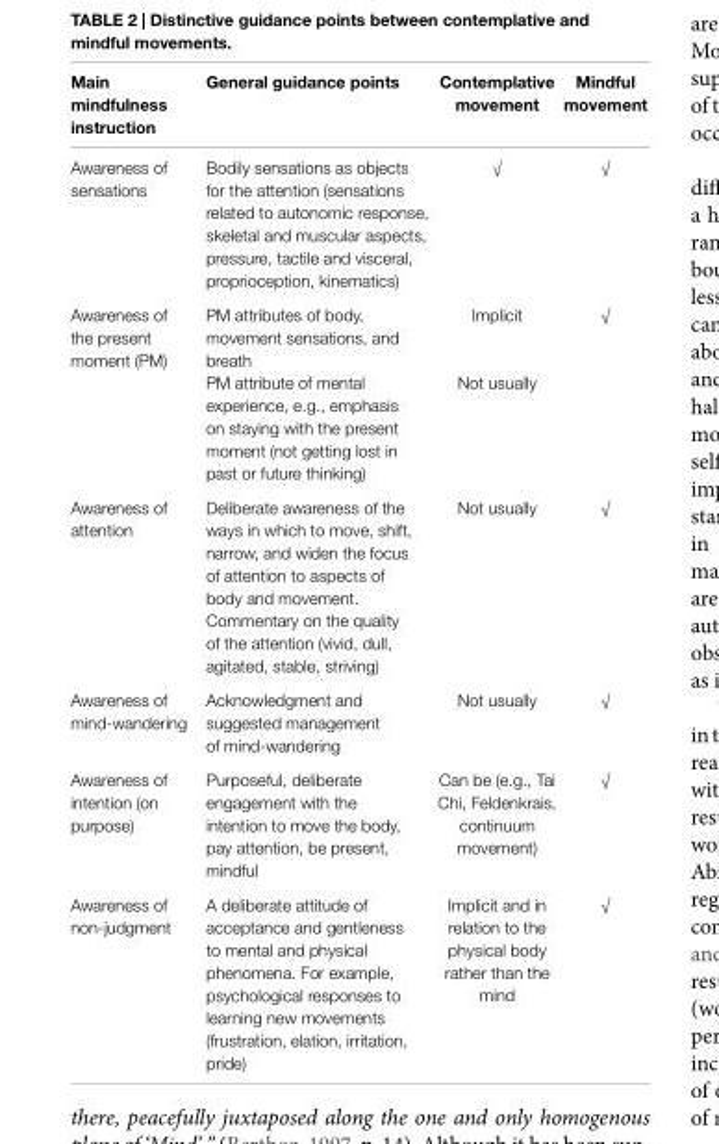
<table><thead><tr><td>Main mindfulness instruction</td><td>General guidance points</td><td>Contemplative movement</td><td>Mindful movement</td></tr></thead><tbody><tr><td>Awareness of sensations</td><td>Bodily sensations as objects for the attention (sensations related to autonomic response, skeletal and muscular aspects, pressure, tactile and visceral, proprioception, kinematics)</td><td>√</td><td>√</td></tr><tr><td rowspan="2">Awareness of the present moment (PM)</td><td>PM attributes of body, movement sensations, and breath</td><td>Implicit</td><td rowspan="2">√</td></tr><tr><td>PM attribute of mental experience, e.g., emphasis on staying with the present moment (not getting lost in past or future thinking)</td><td>Not usually</td></tr><tr><td>Awareness of attention</td><td>Deliberate awareness of the ways in which to move, shift, narrow, and widen the focus of attention to aspects of body and movement. Commentary on the quality of the attention (vivid, dull, agitated, stable, striving)</td><td>Not usually</td><td>√</td></tr><tr><td>Awareness of mind-wandering</td><td>Acknowledgment and suggested management of mind-wandering</td><td>Not usually</td><td>√</td></tr><tr><td>Awareness of intention (on purpose)</td><td>Purposeful, deliberate engagement with the intention to move the body, pay attention, be present, mindful</td><td>Can be (e.g., Tai Chi, Feldenkrais, continuum movement)</td><td>√</td></tr><tr><td>Awareness of non-judgment</td><td>A deliberate attitude of acceptance and gentleness to mental and physical phenomena. For example, psychological responses to learning new movements (frustration, elation, irritation, pride)</td><td>Implicit and in relation to the physical body rather than the mind</td><td>√</td></tr></tbody></table>